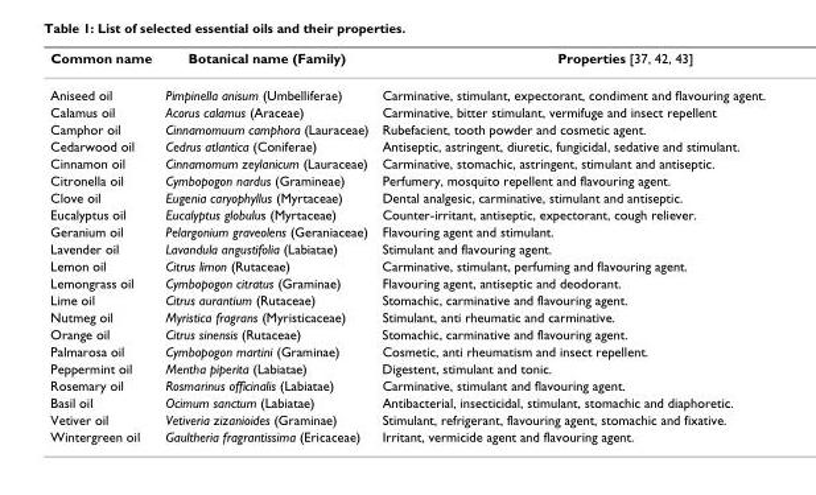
<table><thead><tr><td>Common name</td><td>Botanical name (Family)</td><td>Properties [37, 42, 43]</td></tr></thead><tbody><tr><td>Aniseed oil</td><td>Pimpinella anisum (Umbelliferae)</td><td>Carminative, stimulant, expectorant, condiment and flavouring agent.</td></tr><tr><td>Calamus oil</td><td>Acorus calamus (Araceae)</td><td>Carminative, bitter stimulant, vermifuge and insect repellent</td></tr><tr><td>Camphor oil</td><td>Cinnamomuum camphora (Lauraceae)</td><td>Rubefacient, tooth powder and cosmetic agent.</td></tr><tr><td>Cedarwood oil</td><td>Cedrus atlantica (Coniferae)</td><td>Antiseptic, astringent, diuretic, fungicidal, sedative and stimulant.</td></tr><tr><td>Cinnamon oil</td><td>Cinnamomum zeylanicum (Lauraceae)</td><td>Carminative, stomachic, astringent, stimulant and antiseptic.</td></tr><tr><td>Citronella oil</td><td>Cymbopogon nardus (Gramineae)</td><td>Perfumery, mosquito repellent and flavouring agent.</td></tr><tr><td>Clove oil</td><td>Eugenia caryophyllus (Myrtaceae)</td><td>Dental analgesic, carminative, stimulant and antiseptic.</td></tr><tr><td>Eucalyptus oil</td><td>Eucalyptus globulus (Myrtaceae)</td><td>Counter-irritant, antiseptic, expectorant, cough reliever.</td></tr><tr><td>Geranium oil</td><td>Pelargonium graveolens (Geraniaceae)</td><td>Flavouring agent and stimulant.</td></tr><tr><td>Lavender oil</td><td>Lavandula angustifolia (Labiatae)</td><td>Stimulant and flavouring agent.</td></tr><tr><td>Lemon oil</td><td>Citrus limon (Rutaceae)</td><td>Carminative, stimulant, perfuming and flavouring agent.</td></tr><tr><td>Lemongrass oil</td><td>Cymbopogon citratus (Graminae)</td><td>Flavouring agent, antiseptic and deodorant.</td></tr><tr><td>Lime oil</td><td>Citrus aurantium (Rutaceae)</td><td>Stomachic, carminative and flavouring agent.</td></tr><tr><td>Nutmeg oil</td><td>Myristica fragrans (Myristicaceae)</td><td>Stimulant, anti rheumatic and carminative.</td></tr><tr><td>Orange oil</td><td>Citrus sinensis (Rutaceae)</td><td>Stomachic, carminative and flavouring agent.</td></tr><tr><td>Palmarosa oil</td><td>Cymbopogon martini (Graminae)</td><td>Cosmetic, anti rheumatism and insect repellent.</td></tr><tr><td>Peppermint oil</td><td>Mentha piperita (Labiatae)</td><td>Digestent, stimulant and tonic.</td></tr><tr><td>Rosemary oil</td><td>Rosmarinus officinalis (Labiatae)</td><td>Carminative, stimulant and flavouring agent.</td></tr><tr><td>Basil oil</td><td>Ocimum sanctum (Labiatae)</td><td>Antibacterial, insecticidal, stimulant, stomachic and diaphoretic.</td></tr><tr><td>Vetiver oil</td><td>Vetiveria zizanioides (Graminae)</td><td>Stimulant, refrigerant, flavouring agent, stomachic and fixative.</td></tr><tr><td>Wintergreen oil</td><td>Gaultheria fragrantissima (Ericaceae)</td><td>Irritant, vermicide agent and flavouring agent.</td></tr></tbody></table>